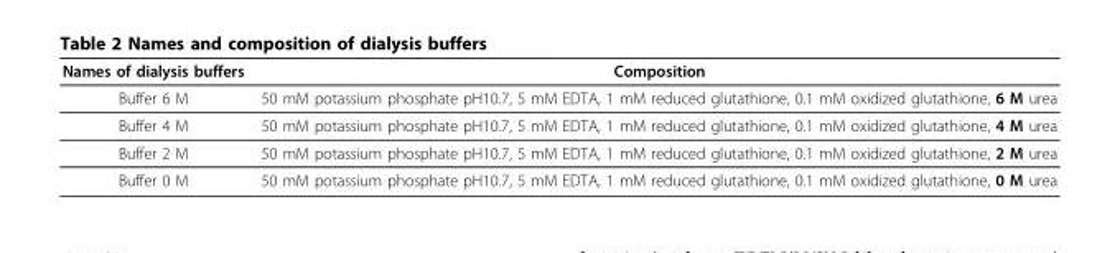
<table><thead><tr><td>Names of dialysis buffers</td><td>Composition</td></tr></thead><tbody><tr><td>Buffer 6 M</td><td>50 mM potassium phosphate pH10.7, 5 mM EDTA, 1 mM reduced glutathione, 0.1 mM oxidized glutathione, 6 M urea</td></tr><tr><td>Buffer 4 M</td><td>50 mM potassium phosphate pH10.7, 5 mM EDTA, 1 mM reduced glutathione, 0.1 mM oxidized glutathione, 4 M urea</td></tr><tr><td>Buffer 2 M</td><td>50 mM potassium phosphate pH10.7, 5 mM EDTA, 1 mM reduced glutathione, 0.1 mM oxidized glutathione, 2 M urea</td></tr><tr><td>Buffer 0 M</td><td>50 mM potassium phosphate pH10.7, 5 mM EDTA, 1 mM reduced glutathione, 0.1 mM oxidized glutathione, 0 M urea</td></tr></tbody></table>